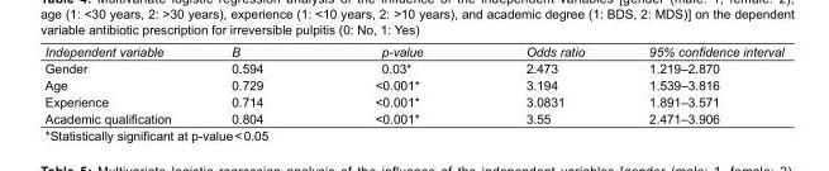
<table><tbody><tr><td>Independent variable</td><td>B</td><td>p-value</td><td>Odds ratio</td><td>95% confidence interval</td></tr><tr><td>Gender</td><td>0.594</td><td>0.03*</td><td>2.473</td><td>1.219–2.870</td></tr><tr><td>Age</td><td>0.729</td><td>&lt;0.001*</td><td>3.194</td><td>1.539–3.816</td></tr><tr><td>Experience</td><td>0.714</td><td>&lt;0.001*</td><td>3.0831</td><td>1.891–3.571</td></tr><tr><td>Academic qualification</td><td>0.804</td><td>&lt;0.001*</td><td>3.55</td><td>2.471–3.906</td></tr></tbody></table>